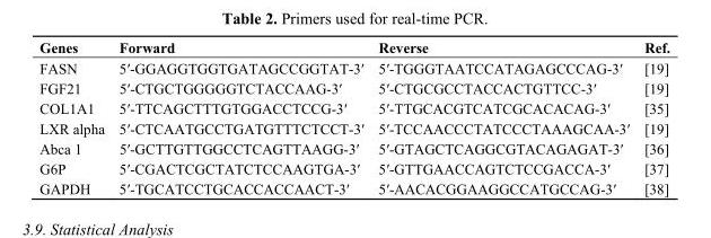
<table><thead><tr><td>Genes</td><td>Forward</td><td>Reverse</td><td>Ref.</td></tr></thead><tbody><tr><td>FASN</td><td>5ʹ-GGAGGTGGTGATAGCCGGTAT-3ʹ</td><td>5ʹ-TGGGTAATCCATAGAGCCCAG-3ʹ</td><td>[19]</td></tr><tr><td>FGF21</td><td>5ʹ-CTGCTGGGGGTCTACCAAG-3ʹ</td><td>5ʹ-CTGCGCCTACCACTGTTCC-3ʹ</td><td>[19]</td></tr><tr><td>COL1A1</td><td>5ʹ-TTCAGCTTTGTGGACCTCCG-3ʹ</td><td>5ʹ-TTGCACGTCATCGCACACAG-3ʹ</td><td>[35]</td></tr><tr><td>LXR alpha</td><td>5ʹ-CTCAATGCCTGATGTTTCTCCT-3ʹ</td><td>5ʹ-TCCAACCCTATCCCTAAAGCAA-3ʹ</td><td>[19]</td></tr><tr><td>Abca 1</td><td>5ʹ-GCTTGTTGGCCTCAGTTAAGG-3ʹ</td><td>5ʹ-GTAGCTCAGGCGTACAGAGAT-3ʹ</td><td>[36]</td></tr><tr><td>G6P</td><td>5ʹ-CGACTCGCTATCTCCAAGTGA-3ʹ</td><td>5ʹ-GTTGAACCAGTCTCCGACCA-3ʹ</td><td>[37]</td></tr><tr><td>GAPDH</td><td>5ʹ-TGCATCCTGCACCACCAACT-3ʹ</td><td>5ʹ-AACACGGAAGGCCATGCCAG-3ʹ</td><td>[38]</td></tr></tbody></table>